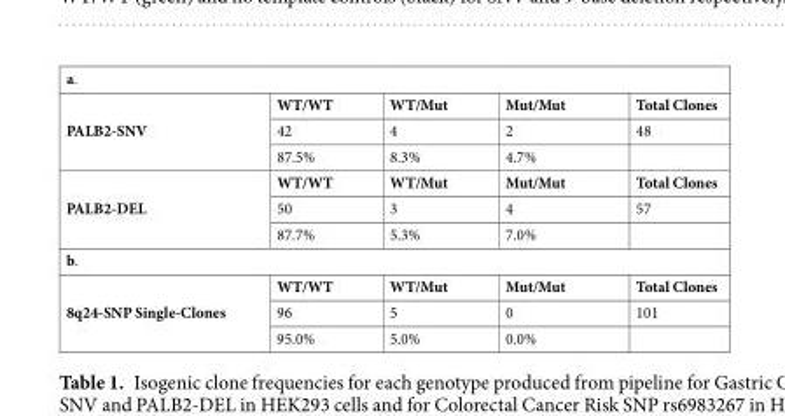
<table><tbody><tr><td colspan="5">a.</td></tr><tr><td rowspan="3">PALB2-SNV</td><td>WT/WT</td><td>WT/Mut</td><td>Mut/Mut</td><td>Total Clones</td></tr><tr><td>42</td><td>4</td><td>2</td><td>48</td></tr><tr><td>87.5%</td><td>8.3%</td><td>4.7%</td><td></td></tr><tr><td rowspan="3">PALB2-DEL</td><td>WT/WT</td><td>WT/Mut</td><td>Mut/Mut</td><td>Total Clones</td></tr><tr><td>50</td><td>3</td><td>4</td><td>57</td></tr><tr><td>87.7%</td><td>5.3%</td><td>7.0%</td><td></td></tr><tr><td colspan="5">b.</td></tr><tr><td rowspan="3">8q24-SNP Single-Clones</td><td>WT/WT</td><td>WT/Mut</td><td>Mut/Mut</td><td>Total Clones</td></tr><tr><td>96</td><td>5</td><td>0</td><td>101</td></tr><tr><td>95.0%</td><td>5.0%</td><td>0.0%</td><td></td></tr></tbody></table>